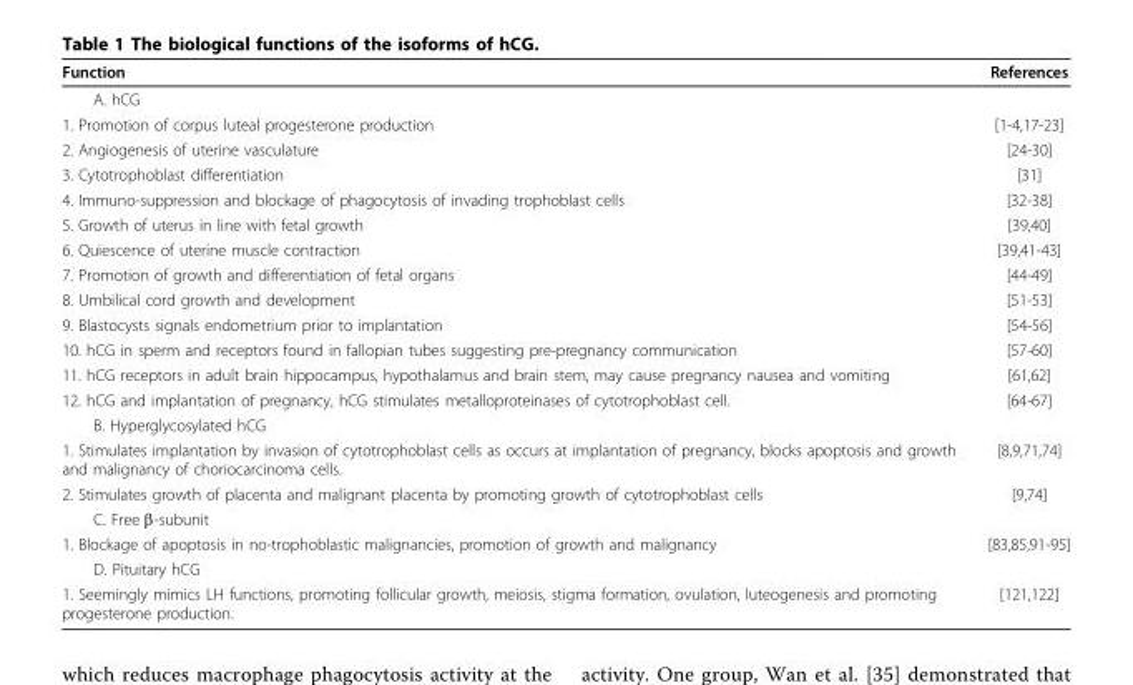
<table><thead><tr><td>Function</td><td>References</td></tr></thead><tbody><tr><td colspan="2">A. hCG</td></tr><tr><td>1. Promotion of corpus luteal progesterone production</td><td>[1-4,17-23]</td></tr><tr><td>2. Angiogenesis of uterine vasculature</td><td>[24-30]</td></tr><tr><td>3. Cytotrophoblast differentiation</td><td>[31]</td></tr><tr><td>4. Immuno-suppression and blockage of phagocytosis of invading trophoblast cells</td><td>[32-38]</td></tr><tr><td>5. Growth of uterus in line with fetal growth</td><td>[39,40]</td></tr><tr><td>6. Quiescence of uterine muscle contraction</td><td>[39,41-43]</td></tr><tr><td>7. Promotion of growth and differentiation of fetal organs</td><td>[44-49]</td></tr><tr><td>8. Umbilical cord growth and development</td><td>[51-53]</td></tr><tr><td>9. Blastocysts signals endometrium prior to implantation</td><td>[54-56]</td></tr><tr><td>10. hCG in sperm and receptors found in fallopian tubes suggesting pre-pregnancy communication</td><td>[57-60]</td></tr><tr><td>11. hCG receptors in adult brain hippocampus, hypothalamus and brain stem, may cause pregnancy nausea and vomiting</td><td>[61,62]</td></tr><tr><td>12. hCG and implantation of pregnancy, hCG stimulates metalloproteinases of cytotrophoblast cell.</td><td>[64-67]</td></tr><tr><td colspan="2">B. Hyperglycosylated hCG</td></tr><tr><td>1. Stimulates implantation by invasion of cytotrophoblast cells as occurs at implantation of pregnancy, blocks apoptosis and growth and malignancy of choriocarcinoma cells.</td><td>[8,9,71,74]</td></tr><tr><td>2. Stimulates growth of placenta and malignant placenta by promoting growth of cytotrophoblast cells</td><td>[9,74]</td></tr><tr><td colspan="2">C. Free β-subunit</td></tr><tr><td>1. Blockage of apoptosis in no-trophoblastic malignancies, promotion of growth and malignancy</td><td>[83,85,91-95]</td></tr><tr><td colspan="2">D. Pituitary hCG</td></tr><tr><td>1. Seemingly mimics LH functions, promoting follicular growth, meiosis, stigma formation, ovulation, luteogenesis and promoting progesterone production.</td><td>[121,122]</td></tr></tbody></table>